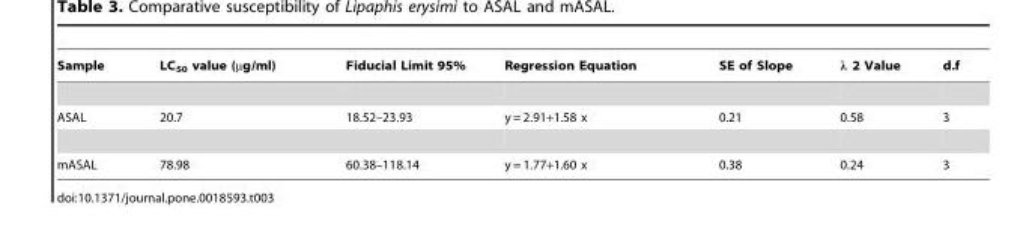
<table><thead><tr><td>Sample</td><td>LC<sub>50</sub> value (µg/ml)</td><td>Fiducial Limit 95%</td><td>Regression Equation</td><td>SE of Slope</td><td>λ 2 Value</td><td>d.f</td></tr></thead><tbody><tr><td>ASAL</td><td>20.7</td><td>18.52–23.93</td><td>y = 2.91+1.58 x</td><td>0.21</td><td>0.58</td><td>3</td></tr><tr><td>mASAL</td><td>78.98</td><td>60.38–118.14</td><td>y = 1.77+1.60 x</td><td>0.38</td><td>0.24</td><td>3</td></tr></tbody></table>